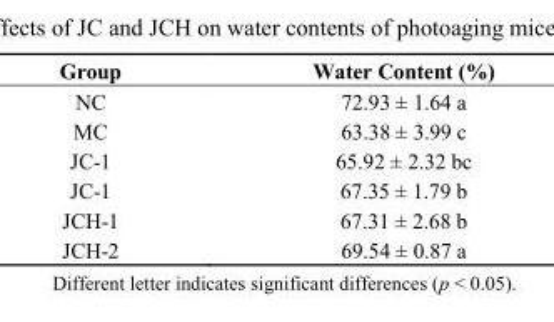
<table><thead><tr><td>Group</td><td>Water Content (%)</td></tr></thead><tbody><tr><td>NC</td><td>72.93 ± 1.64 a</td></tr><tr><td>MC</td><td>63.38 ± 3.99 c</td></tr><tr><td>JC-1</td><td>65.92 ± 2.32 bc</td></tr><tr><td>JC-1</td><td>67.35 ± 1.79 b</td></tr><tr><td>JCH-1</td><td>67.31 ± 2.68 b</td></tr><tr><td>JCH-2</td><td>69.54 ± 0.87 a</td></tr></tbody></table>